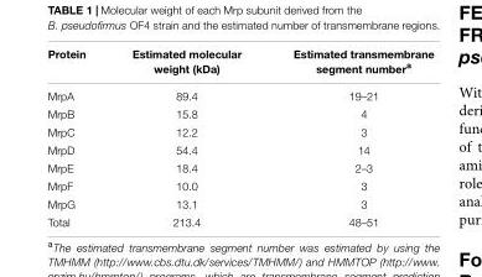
<table><thead><tr><td>Protein</td><td>Estimated molecular weight (kDa)</td><td>Estimated transmembrane segment number<sup>a</sup></td></tr></thead><tbody><tr><td>MrpA</td><td>89.4</td><td>19–21</td></tr><tr><td>MrpB</td><td>15.8</td><td>4</td></tr><tr><td>MrpC</td><td>12.2</td><td>3</td></tr><tr><td>MrpD</td><td>54.4</td><td>14</td></tr><tr><td>MrpE</td><td>18.4</td><td>2–3</td></tr><tr><td>MrpF</td><td>10.0</td><td>3</td></tr><tr><td>MrpG</td><td>13.1</td><td>3</td></tr><tr><td>Total</td><td>213.4</td><td>48–51</td></tr></tbody></table>